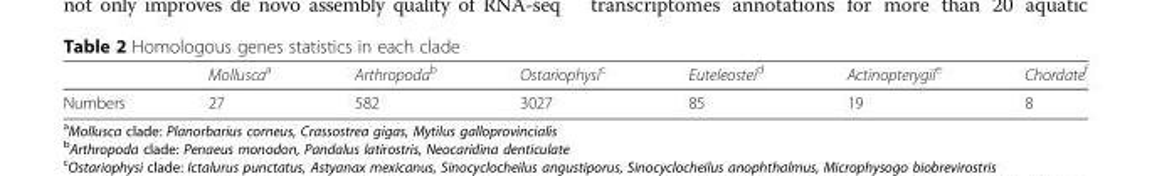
<table><thead><tr><td></td><td>Mollusca<sup>a</sup></td><td>Arthropoda<sup>b</sup></td><td>Ostariophysi<sup>c</sup></td><td>Euteleostei<sup>d</sup></td><td>Actinopterygii<sup>e</sup></td><td>Chordate<sup>f</sup></td></tr></thead><tbody><tr><td>Numbers</td><td>27</td><td>582</td><td>3027</td><td>85</td><td>19</td><td>8</td></tr></tbody></table>